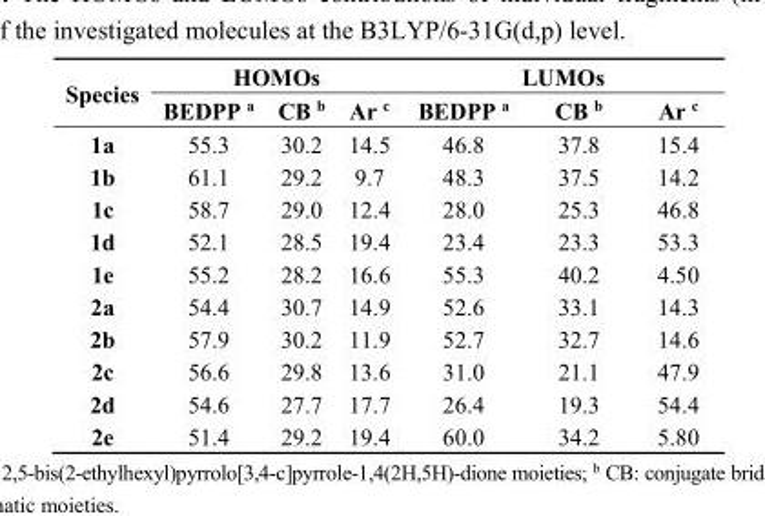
<table><thead><tr><td rowspan="2">Species</td><td colspan="3">HOMOs</td><td colspan="3">LUMOs</td></tr><tr><td>BEDPP <sup>a</sup></td><td>CB <sup>b</sup></td><td>Ar <sup>c</sup></td><td>BEDPP <sup>a</sup></td><td>CB <sup>b</sup></td><td>Ar <sup>c</sup></td></tr></thead><tbody><tr><td>1a</td><td>55.3</td><td>30.2</td><td>14.5</td><td>46.8</td><td>37.8</td><td>15.4</td></tr><tr><td>1b</td><td>61.1</td><td>29.2</td><td>9.7</td><td>48.3</td><td>37.5</td><td>14.2</td></tr><tr><td>1c</td><td>58.7</td><td>29.0</td><td>12.4</td><td>28.0</td><td>25.3</td><td>46.8</td></tr><tr><td>1d</td><td>52.1</td><td>28.5</td><td>19.4</td><td>23.4</td><td>23.3</td><td>53.3</td></tr><tr><td>1e</td><td>55.2</td><td>28.2</td><td>16.6</td><td>55.3</td><td>40.2</td><td>4.50</td></tr><tr><td>2a</td><td>54.4</td><td>30.7</td><td>14.9</td><td>52.6</td><td>33.1</td><td>14.3</td></tr><tr><td>2b</td><td>57.9</td><td>30.2</td><td>11.9</td><td>52.7</td><td>32.7</td><td>14.6</td></tr><tr><td>2c</td><td>56.6</td><td>29.8</td><td>13.6</td><td>31.0</td><td>21.1</td><td>47.9</td></tr><tr><td>2d</td><td>54.6</td><td>27.7</td><td>17.7</td><td>26.4</td><td>19.3</td><td>54.4</td></tr><tr><td>2e</td><td>51.4</td><td>29.2</td><td>19.4</td><td>60.0</td><td>34.2</td><td>5.80</td></tr></tbody></table>